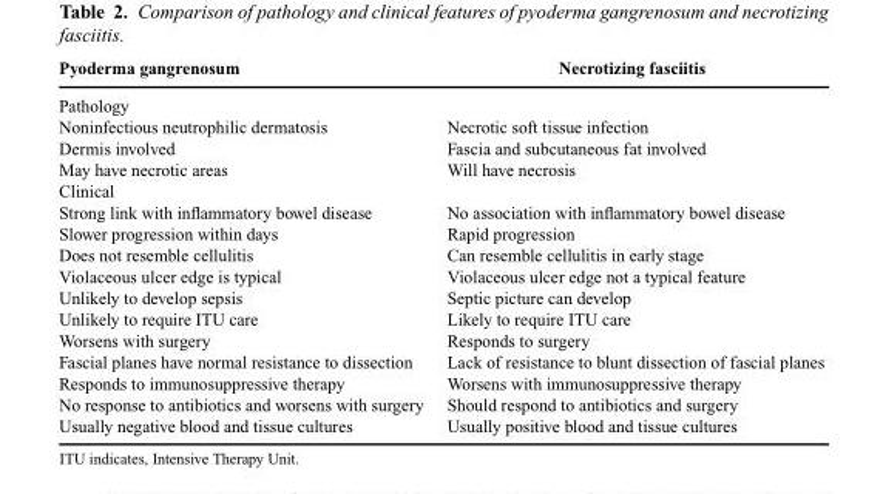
<table><thead><tr><td>Pyoderma gangrenosum</td><td>Necrotizing fasciitis</td></tr></thead><tbody><tr><td colspan="2">Pathology</td></tr><tr><td>Noninfectious neutrophilic dermatosis</td><td>Necrotic soft tissue infection</td></tr><tr><td>Dermis involved</td><td>Fascia and subcutaneous fat involved</td></tr><tr><td>May have necrotic areas</td><td>Will have necrosis</td></tr><tr><td colspan="2">Clinical</td></tr><tr><td>Strong link with inflammatory bowel disease</td><td>No association with inflammatory bowel disease</td></tr><tr><td>Slower progression within days</td><td>Rapid progression</td></tr><tr><td>Does not resemble cellulitis</td><td>Can resemble cellulitis in early stage</td></tr><tr><td>Violaceous ulcer edge is typical</td><td>Violaceous ulcer edge not a typical feature</td></tr><tr><td>Unlikely to develop sepsis</td><td>Septic picture can develop</td></tr><tr><td>Unlikely to require ITU care</td><td>Likely to require ITU care</td></tr><tr><td>Worsens with surgery</td><td>Responds to surgery</td></tr><tr><td>Fascial planes have normal resistance to dissection</td><td>Lack of resistance to blunt dissection of fascial planes</td></tr><tr><td>Responds to immunosuppressive therapy</td><td>Worsens with immunosuppressive therapy</td></tr><tr><td>No response to antibiotics and worsens with surgery</td><td>Should respond to antibiotics and surgery</td></tr><tr><td>Usually negative blood and tissue cultures</td><td>Usually positive blood and tissue cultures</td></tr></tbody></table>